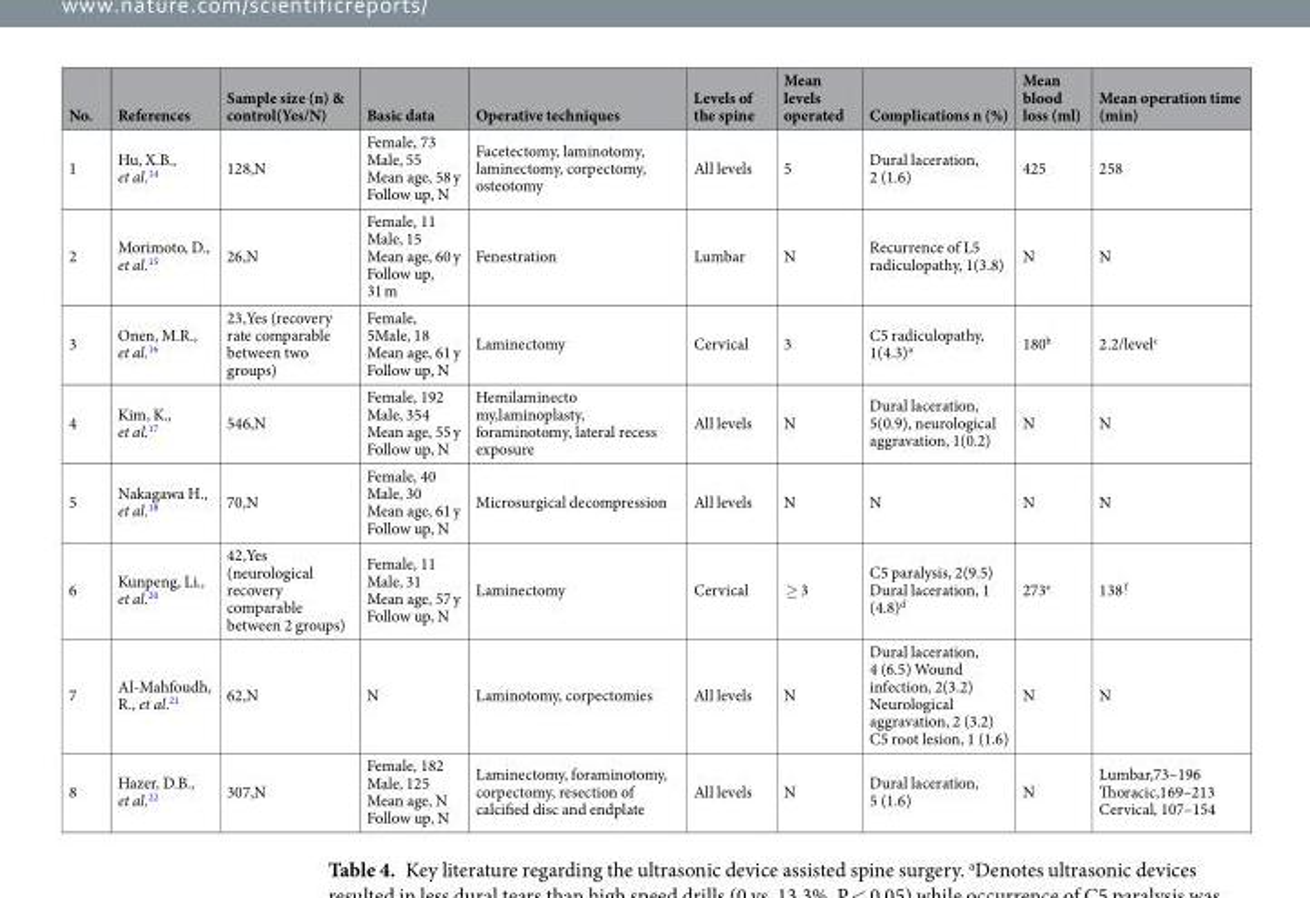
<table><thead><tr><td>No.</td><td>References</td><td>Sample size (n) &amp; control(Yes/N)</td><td>Basic data</td><td>Operative techniques</td><td>Levels of the spine</td><td>Mean levels operated</td><td>Complications n (%)</td><td>Mean blood loss (ml)</td><td>Mean operation time (min)</td></tr></thead><tbody><tr><td>1</td><td>Hu, X.B., et al.<sup>14</sup></td><td>128,N</td><td>Female, 73 Male, 55 Mean age, 58 y Follow up, N</td><td>Facetectomy, laminotomy, laminectomy, corpectomy, osteotomy</td><td>All levels</td><td>5</td><td>Dural laceration, 2 (1.6)</td><td>425</td><td>258</td></tr><tr><td>2</td><td>Morimoto, D., et al.<sup>15</sup></td><td>26,N</td><td>Female, 11 Male, 15 Mean age, 60 y Follow up, 31 m</td><td>Fenestration</td><td>Lumbar</td><td>N</td><td>Recurrence of L5 radiculopathy, 1(3.8)</td><td>N</td><td>N</td></tr><tr><td>3</td><td>Onen, M.R., et al.<sup>16</sup></td><td>23,Yes (recovery rate comparable between two groups)</td><td>Female, 5Male, 18 Mean age, 61 y Follow up, N</td><td>Laminectomy</td><td>Cervical</td><td>3</td><td>C5 radiculopathy, 1(4.3)<sup>a</sup></td><td>180<sup>b</sup></td><td>2.2/level<sup>c</sup></td></tr><tr><td>4</td><td>Kim, K., et al.<sup>17</sup></td><td>546,N</td><td>Female, 192 Male, 354 Mean age, 55 y Follow up, N</td><td>Hemilaminecto my,laminoplasty, foraminotomy, lateral recess exposure</td><td>All levels</td><td>N</td><td>Dural laceration, 5(0.9), neurological aggravation, 1(0.2)</td><td>N</td><td>N</td></tr><tr><td>5</td><td>Nakagawa H., et al.<sup>18</sup></td><td>70,N</td><td>Female, 40 Male, 30 Mean age, 61 y Follow up, N</td><td>Microsurgical decompression</td><td>All levels</td><td>N</td><td>N</td><td>N</td><td>N</td></tr><tr><td>6</td><td>Kunpeng, Li., et al.<sup>20</sup></td><td>42,Yes (neurological recovery comparable between 2 groups)</td><td>Female, 11 Male, 31 Mean age, 57 y Follow up, N</td><td>Laminectomy</td><td>Cervical</td><td>≥ 3</td><td>C5 paralysis, 2(9.5) Dural laceration, 1 (4.8)<sup>d</sup></td><td>273<sup>e</sup></td><td>138 <sup>f</sup></td></tr><tr><td>7</td><td>Al-Mahfoudh, R., et al.<sup>21</sup></td><td>62,N</td><td>N</td><td>Laminotomy, corpectomies</td><td>All levels</td><td>N</td><td>Dural laceration, 4 (6.5) Wound infection, 2(3.2) Neurological aggravation, 2 (3.2) C5 root lesion, 1 (1.6)</td><td>N</td><td>N</td></tr><tr><td>8</td><td>Hazer, D.B., et al.<sup>22</sup></td><td>307,N</td><td>Female, 182 Male, 125 Mean age, N Follow up, N</td><td>Laminectomy, foraminotomy, corpectomy, resection of calcified disc and endplate</td><td>All levels</td><td>N</td><td>Dural laceration, 5 (1.6)</td><td>N</td><td>Lumbar,73–196 Thoracic,169–213 Cervical, 107–154</td></tr></tbody></table>